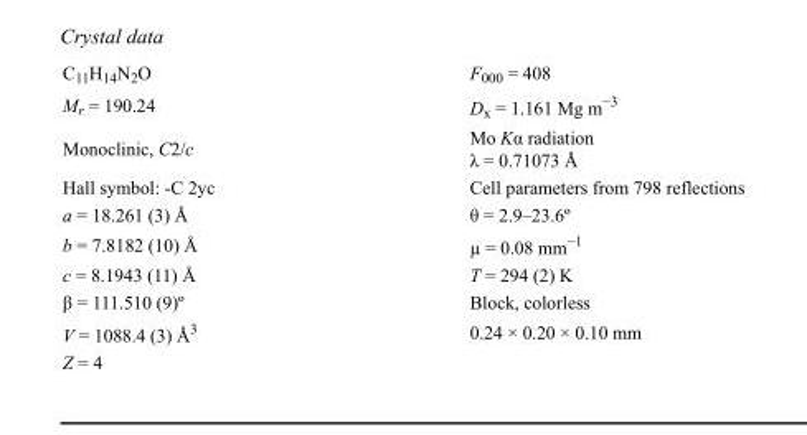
<table><tbody><tr><td>C<sub>11</sub>H<sub>14</sub>N<sub>2</sub>O</td><td>F<sub>000</sub> = 408</td></tr><tr><td>M<sub>r</sub> = 190.24</td><td>D<sub>x</sub> = 1.161 Mg m<sup>−3</sup></td></tr><tr><td>Monoclinic, C2/c</td><td>Mo Kα radiation λ = 0.71073 Å</td></tr><tr><td>Hall symbol: -C 2yc</td><td>Cell parameters from 798 reflections</td></tr><tr><td>a = 18.261 (3) Å</td><td>θ = 2.9–23.6º</td></tr><tr><td>b = 7.8182 (10) Å</td><td>µ = 0.08 mm<sup>−1</sup></td></tr><tr><td>c = 8.1943 (11) Å</td><td>T = 294 (2) K</td></tr><tr><td>β = 111.510 (9)º</td><td>Block, colorless</td></tr><tr><td>V = 1088.4 (3) Å<sup>3</sup></td><td>0.24 × 0.20 × 0.10 mm</td></tr><tr><td>Z = 4</td><td></td></tr></tbody></table>